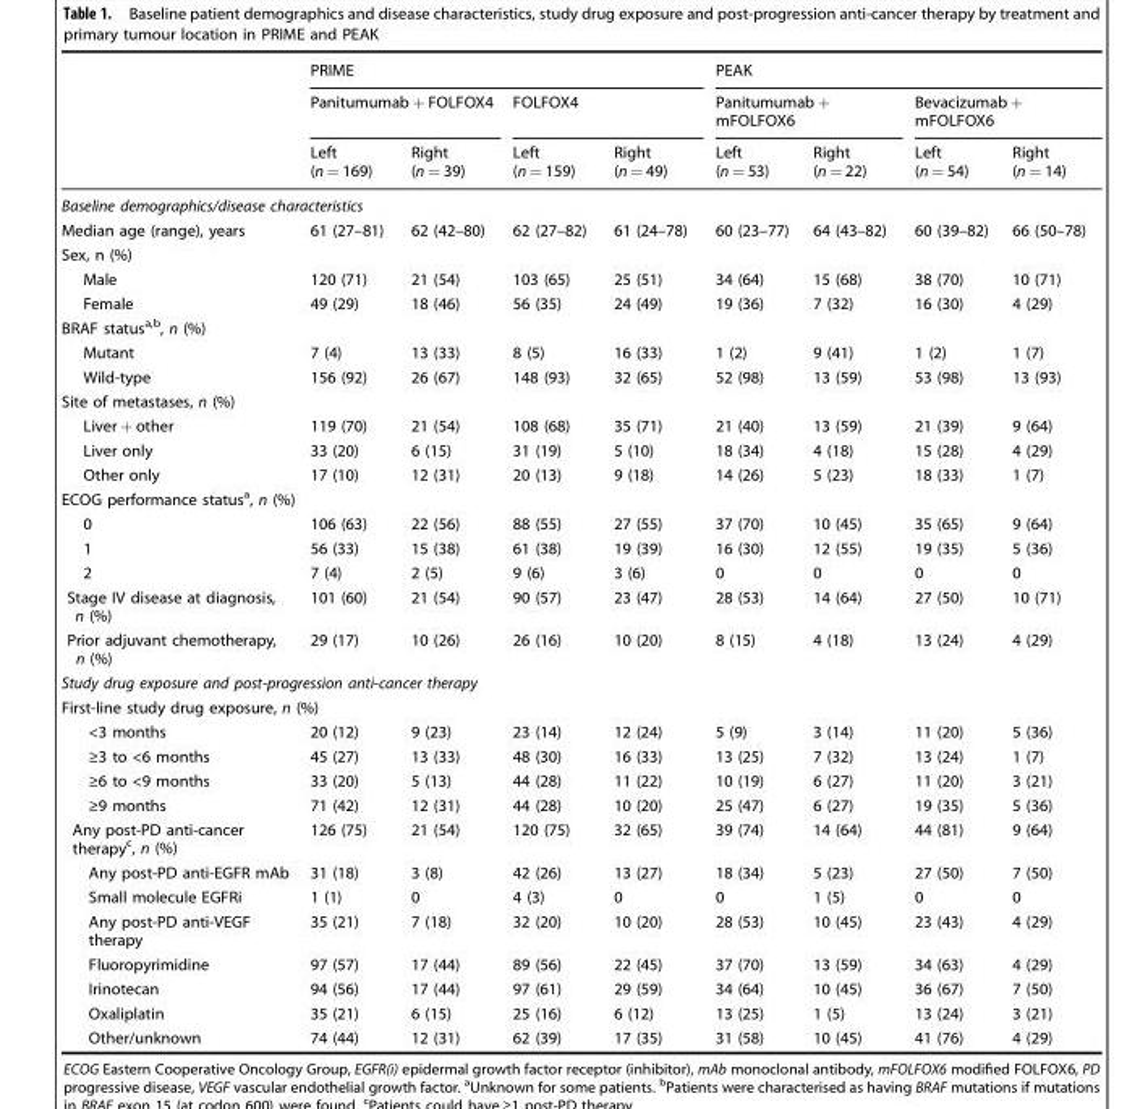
<table><thead><tr><td rowspan="3"></td><td colspan="4">PRIME</td><td colspan="4">PEAK</td></tr><tr><td colspan="2">Panitumumab + FOLFOX4</td><td colspan="2">FOLFOX4</td><td colspan="2">Panitumumab + mFOLFOX6</td><td colspan="2">Bevacizumab + mFOLFOX6</td></tr><tr><td>Left (n = 169)</td><td>Right (n = 39)</td><td>Left (n = 159)</td><td>Right (n = 49)</td><td>Left (n = 53)</td><td>Right (n = 22)</td><td>Left (n = 54)</td><td>Right (n = 14)</td></tr></thead><tbody><tr><td colspan="9">Baseline demographics/disease characteristics</td></tr><tr><td>Median age (range), years</td><td>61 (27–81)</td><td>62 (42–80)</td><td>62 (27–82)</td><td>61 (24–78)</td><td>60 (23–77)</td><td>64 (43–82)</td><td>60 (39–82)</td><td>66 (50–78)</td></tr><tr><td colspan="9">Sex, n (%)</td></tr><tr><td>Male</td><td>120 (71)</td><td>21 (54)</td><td>103 (65)</td><td>25 (51)</td><td>34 (64)</td><td>15 (68)</td><td>38 (70)</td><td>10 (71)</td></tr><tr><td>Female</td><td>49 (29)</td><td>18 (46)</td><td>56 (35)</td><td>24 (49)</td><td>19 (36)</td><td>7 (32)</td><td>16 (30)</td><td>4 (29)</td></tr><tr><td colspan="9">BRAF status<sup>a,b</sup>, n (%)</td></tr><tr><td>Mutant</td><td>7 (4)</td><td>13 (33)</td><td>8 (5)</td><td>16 (33)</td><td>1 (2)</td><td>9 (41)</td><td>1 (2)</td><td>1 (7)</td></tr><tr><td>Wild-type</td><td>156 (92)</td><td>26 (67)</td><td>148 (93)</td><td>32 (65)</td><td>52 (98)</td><td>13 (59)</td><td>53 (98)</td><td>13 (93)</td></tr><tr><td colspan="9">Site of metastases, n (%)</td></tr><tr><td>Liver + other</td><td>119 (70)</td><td>21 (54)</td><td>108 (68)</td><td>35 (71)</td><td>21 (40)</td><td>13 (59)</td><td>21 (39)</td><td>9 (64)</td></tr><tr><td>Liver only</td><td>33 (20)</td><td>6 (15)</td><td>31 (19)</td><td>5 (10)</td><td>18 (34)</td><td>4 (18)</td><td>15 (28)</td><td>4 (29)</td></tr><tr><td>Other only</td><td>17 (10)</td><td>12 (31)</td><td>20 (13)</td><td>9 (18)</td><td>14 (26)</td><td>5 (23)</td><td>18 (33)</td><td>1 (7)</td></tr><tr><td colspan="9">ECOG performance status<sup>a</sup>, n (%)</td></tr><tr><td>0</td><td>106 (63)</td><td>22 (56)</td><td>88 (55)</td><td>27 (55)</td><td>37 (70)</td><td>10 (45)</td><td>35 (65)</td><td>9 (64)</td></tr><tr><td>1</td><td>56 (33)</td><td>15 (38)</td><td>61 (38)</td><td>19 (39)</td><td>16 (30)</td><td>12 (55)</td><td>19 (35)</td><td>5 (36)</td></tr><tr><td>2</td><td>7 (4)</td><td>2 (5)</td><td>9 (6)</td><td>3 (6)</td><td>0</td><td>0</td><td>0</td><td>0</td></tr><tr><td>Stage IV disease at diagnosis, n (%)</td><td>101 (60)</td><td>21 (54)</td><td>90 (57)</td><td>23 (47)</td><td>28 (53)</td><td>14 (64)</td><td>27 (50)</td><td>10 (71)</td></tr><tr><td>Prior adjuvant chemotherapy, n (%)</td><td>29 (17)</td><td>10 (26)</td><td>26 (16)</td><td>10 (20)</td><td>8 (15)</td><td>4 (18)</td><td>13 (24)</td><td>4 (29)</td></tr><tr><td colspan="9">Study drug exposure and post-progression anti-cancer therapy</td></tr><tr><td colspan="9">First-line study drug exposure, n (%)</td></tr><tr><td>&lt;3 months</td><td>20 (12)</td><td>9 (23)</td><td>23 (14)</td><td>12 (24)</td><td>5 (9)</td><td>3 (14)</td><td>11 (20)</td><td>5 (36)</td></tr><tr><td>≥3 to &lt;6 months</td><td>45 (27)</td><td>13 (33)</td><td>48 (30)</td><td>16 (33)</td><td>13 (25)</td><td>7 (32)</td><td>13 (24)</td><td>1 (7)</td></tr><tr><td>≥6 to &lt;9 months</td><td>33 (20)</td><td>5 (13)</td><td>44 (28)</td><td>11 (22)</td><td>10 (19)</td><td>6 (27)</td><td>11 (20)</td><td>3 (21)</td></tr><tr><td>≥9 months</td><td>71 (42)</td><td>12 (31)</td><td>44 (28)</td><td>10 (20)</td><td>25 (47)</td><td>6 (27)</td><td>19 (35)</td><td>5 (36)</td></tr><tr><td>Any post-PD anti-cancer therapy<sup>c</sup>, n (%)</td><td>126 (75)</td><td>21 (54)</td><td>120 (75)</td><td>32 (65)</td><td>39 (74)</td><td>14 (64)</td><td>44 (81)</td><td>9 (64)</td></tr><tr><td>Any post-PD anti-EGFR mAb</td><td>31 (18)</td><td>3 (8)</td><td>42 (26)</td><td>13 (27)</td><td>18 (34)</td><td>5 (23)</td><td>27 (50)</td><td>7 (50)</td></tr><tr><td>Small molecule EGFRi</td><td>1 (1)</td><td>0</td><td>4 (3)</td><td>0</td><td>0</td><td>1 (5)</td><td>0</td><td>0</td></tr><tr><td>Any post-PD anti-VEGF therapy</td><td>35 (21)</td><td>7 (18)</td><td>32 (20)</td><td>10 (20)</td><td>28 (53)</td><td>10 (45)</td><td>23 (43)</td><td>4 (29)</td></tr><tr><td>Fluoropyrimidine</td><td>97 (57)</td><td>17 (44)</td><td>89 (56)</td><td>22 (45)</td><td>37 (70)</td><td>13 (59)</td><td>34 (63)</td><td>4 (29)</td></tr><tr><td>Irinotecan</td><td>94 (56)</td><td>17 (44)</td><td>97 (61)</td><td>29 (59)</td><td>34 (64)</td><td>10 (45)</td><td>36 (67)</td><td>7 (50)</td></tr><tr><td>Oxaliplatin</td><td>35 (21)</td><td>6 (15)</td><td>25 (16)</td><td>6 (12)</td><td>13 (25)</td><td>1 (5)</td><td>13 (24)</td><td>3 (21)</td></tr><tr><td>Other/unknown</td><td>74 (44)</td><td>12 (31)</td><td>62 (39)</td><td>17 (35)</td><td>31 (58)</td><td>10 (45)</td><td>41 (76)</td><td>4 (29)</td></tr></tbody></table>